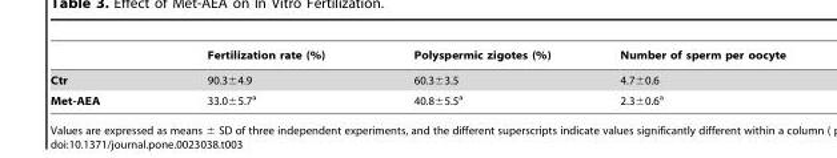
<table><thead><tr><td></td><td>Fertilization rate (%)</td><td>Polyspermic zigotes (%)</td><td>Number of sperm per oocyte</td></tr></thead><tbody><tr><td>Ctr</td><td>90.3±4.9</td><td>60.3±3.5</td><td>4.7±0.6</td></tr><tr><td>Met-AEA</td><td>33.0±5.7<sup>a</sup></td><td>40.8±5.5<sup>a</sup></td><td>2.3±0.6<sup>a</sup></td></tr></tbody></table>